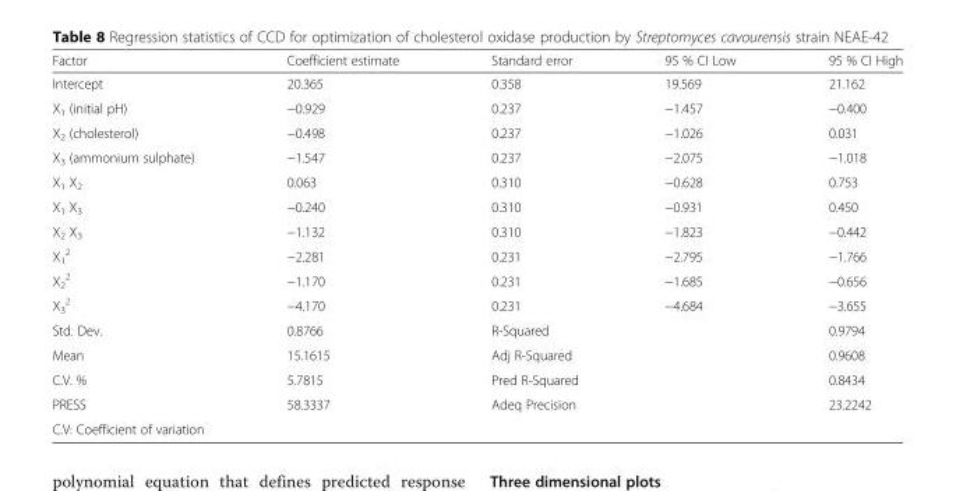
<table><thead><tr><td>Factor</td><td>Coefficient estimate</td><td>Standard error</td><td>95 % CI Low</td><td>95 % CI High</td></tr></thead><tbody><tr><td>Intercept</td><td>20.365</td><td>0.358</td><td>19.569</td><td>21.162</td></tr><tr><td>X<sub>1</sub> (initial pH)</td><td>−0.929</td><td>0.237</td><td>−1.457</td><td>−0.400</td></tr><tr><td>X<sub>2</sub> (cholesterol)</td><td>−0.498</td><td>0.237</td><td>−1.026</td><td>0.031</td></tr><tr><td>X<sub>3</sub> (ammonium sulphate)</td><td>−1.547</td><td>0.237</td><td>−2.075</td><td>−1.018</td></tr><tr><td>X<sub>1</sub> X<sub>2</sub></td><td>0.063</td><td>0.310</td><td>−0.628</td><td>0.753</td></tr><tr><td>X<sub>1</sub> X<sub>3</sub></td><td>−0.240</td><td>0.310</td><td>−0.931</td><td>0.450</td></tr><tr><td>X<sub>2</sub> X<sub>3</sub></td><td>−1.132</td><td>0.310</td><td>−1.823</td><td>−0.442</td></tr><tr><td>X<sub>1</sub> <sup>2</sup></td><td>−2.281</td><td>0.231</td><td>−2.795</td><td>−1.766</td></tr><tr><td>X<sub>2</sub> <sup>2</sup></td><td>−1.170</td><td>0.231</td><td>−1.685</td><td>−0.656</td></tr><tr><td>X<sub>3</sub> <sup>2</sup></td><td>−4.170</td><td>0.231</td><td>−4.684</td><td>−3.655</td></tr><tr><td>Std. Dev.</td><td>0.8766</td><td colspan="2">R-Squared</td><td>0.9794</td></tr><tr><td>Mean</td><td>15.1615</td><td colspan="2">Adj R-Squared</td><td>0.9608</td></tr><tr><td>C.V. %</td><td>5.7815</td><td colspan="2">Pred R-Squared</td><td>0.8434</td></tr><tr><td>PRESS</td><td>58.3337</td><td colspan="2">Adeq Precision</td><td>23.2242</td></tr><tr><td colspan="5">C.V: Coefficient of variation</td></tr></tbody></table>